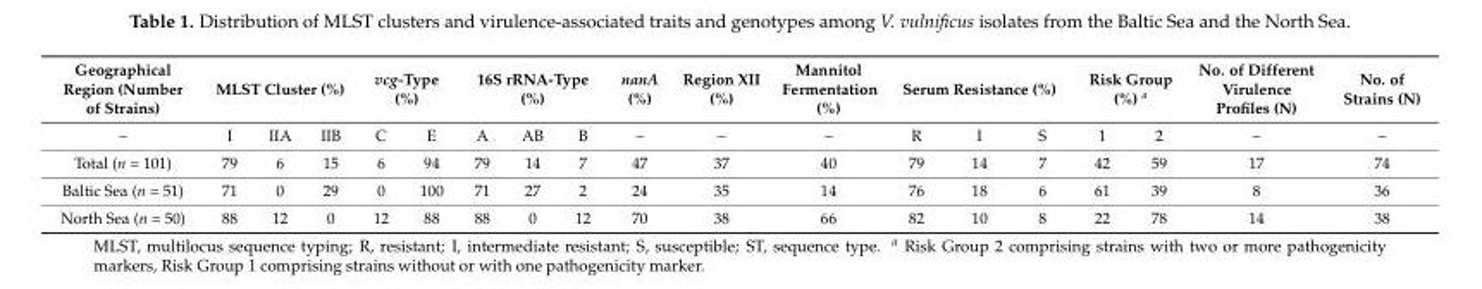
<table><thead><tr><td rowspan="2">Geographical Region (Number of Strains) –</td><td colspan="3">MLST Cluster (%)</td><td colspan="2">vcg-Type (%)</td><td colspan="3">16S rRNA-Type (%)</td><td rowspan="2">nanA (%) –</td><td rowspan="2">Region XII (%) –</td><td rowspan="2">Mannitol Fermentation (%) –</td><td colspan="3">Serum Resistance (%)</td><td colspan="2">Risk Group (%) <sup>a</sup></td><td rowspan="2">No. of Different Virulence Profiles (N) –</td><td rowspan="2">No. of Strains (N) –</td></tr><tr><td>I</td><td>IIA</td><td>IIB</td><td>C</td><td>E</td><td>A</td><td>AB</td><td>B</td><td>R</td><td>I</td><td>S</td><td>1</td><td>2</td></tr></thead><tbody><tr><td>Total (n = 101)</td><td>79</td><td>6</td><td>15</td><td>6</td><td>94</td><td>79</td><td>14</td><td>7</td><td>47</td><td>37</td><td>40</td><td>79</td><td>14</td><td>7</td><td>42</td><td>59</td><td>17</td><td>74</td></tr><tr><td>Baltic Sea (n = 51)</td><td>71</td><td>0</td><td>29</td><td>0</td><td>100</td><td>71</td><td>27</td><td>2</td><td>24</td><td>35</td><td>14</td><td>76</td><td>18</td><td>6</td><td>61</td><td>39</td><td>8</td><td>36</td></tr><tr><td>North Sea (n = 50)</td><td>88</td><td>12</td><td>0</td><td>12</td><td>88</td><td>88</td><td>0</td><td>12</td><td>70</td><td>38</td><td>66</td><td>82</td><td>10</td><td>8</td><td>22</td><td>78</td><td>14</td><td>38</td></tr></tbody></table>